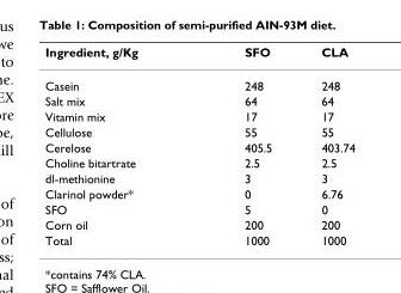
<table><thead><tr><td>Ingredient, g/Kg</td><td>SFO</td><td>CLA</td></tr></thead><tbody><tr><td>Casein</td><td>248</td><td>248</td></tr><tr><td>Salt mix</td><td>64</td><td>64</td></tr><tr><td>Vitamin mix</td><td>17</td><td>17</td></tr><tr><td>Cellulose</td><td>55</td><td>55</td></tr><tr><td>Cerelose</td><td>405.5</td><td>403.74</td></tr><tr><td>Choline bitartrate</td><td>2.5</td><td>2.5</td></tr><tr><td>dl-methionine</td><td>3</td><td>3</td></tr><tr><td>Clarinol powder*</td><td>0</td><td>6.76</td></tr><tr><td>SFO</td><td>5</td><td>0</td></tr><tr><td>Corn oil</td><td>200</td><td>200</td></tr><tr><td>Total</td><td>1000</td><td>1000</td></tr></tbody></table>